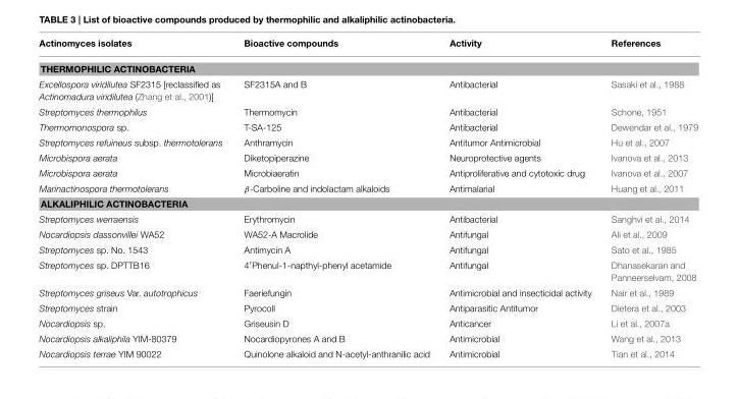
<table><thead><tr><td>Actinomyces isolates</td><td>Bioactive compounds</td><td>Activity</td><td>References</td></tr></thead><tbody><tr><td colspan="4">THERMOPHILIC ACTINOBACTERIA</td></tr><tr><td>Excellospora viridilutea SF2315 [reclassified as Actinomadura viridilutea (Zhang et al., 2001)]</td><td>SF2315A and B</td><td>Antibacterial</td><td>Sasaki et al., 1988</td></tr><tr><td>Streptomyces thermophilus</td><td>Thermomycin</td><td>Antibacterial</td><td>Schone, 1951</td></tr><tr><td>Thermomonospora sp.</td><td>T-SA-125</td><td>Antibacterial</td><td>Dewendar et al., 1979</td></tr><tr><td>Streptomyces refuineus subsp. thermotolerans</td><td>Anthramycin</td><td>Antitumor Antimicrobial</td><td>Hu et al., 2007</td></tr><tr><td>Microbispora aerata</td><td>Diketopiperazine</td><td>Neuroprotective agents</td><td>Ivanova et al., 2013</td></tr><tr><td>Microbispora aerata</td><td>Microbiaeratin</td><td>Antiproliferative and cytotoxic drug</td><td>Ivanova et al., 2007</td></tr><tr><td>Marinactinospora thermotolerans</td><td>β-Carboline and indolactam alkaloids</td><td>Antimalarial</td><td>Huang et al., 2011</td></tr><tr><td colspan="4">ALKALIPHILIC ACTINOBACTERIA</td></tr><tr><td>Streptomyces werraensis</td><td>Erythromycin</td><td>Antibacterial</td><td>Sanghvi et al., 2014</td></tr><tr><td>Nocardiopsis dassonvillei WA52</td><td>WA52-A Macrolide</td><td>Antifungal</td><td>Ali et al., 2009</td></tr><tr><td>Streptomyces sp. No. 1543</td><td>Antimycin A</td><td>Antifungal</td><td>Sato et al., 1985</td></tr><tr><td>Streptomyces sp. DPTTB16</td><td>4′Phenul-1-napthyl-phenyl acetamide</td><td>Antifungal</td><td>Dhanasekaran and Panneerselvam, 2008</td></tr><tr><td>Streptomyces griseus Var. autotrophicus</td><td>Faeriefungin</td><td>Antimicrobial and insecticidal activity</td><td>Nair et al., 1989</td></tr><tr><td>Streptomyces strain</td><td>Pyrocoll</td><td>Antiparasitic Antitumor</td><td>Dietera et al., 2003</td></tr><tr><td>Nocardiopsis sp.</td><td>Griseusin D</td><td>Anticancer</td><td>Li et al., 2007a</td></tr><tr><td>Nocardiopsis alkaliphila YIM-80379</td><td>Nocardiopyrones A and B</td><td>Antimicrobial</td><td>Wang et al., 2013</td></tr><tr><td>Nocardiopsis terrae YIM 90022</td><td>Quinolone alkaloid and N-acetyl-anthranilic acid</td><td>Antimicrobial</td><td>Tian et al., 2014</td></tr></tbody></table>